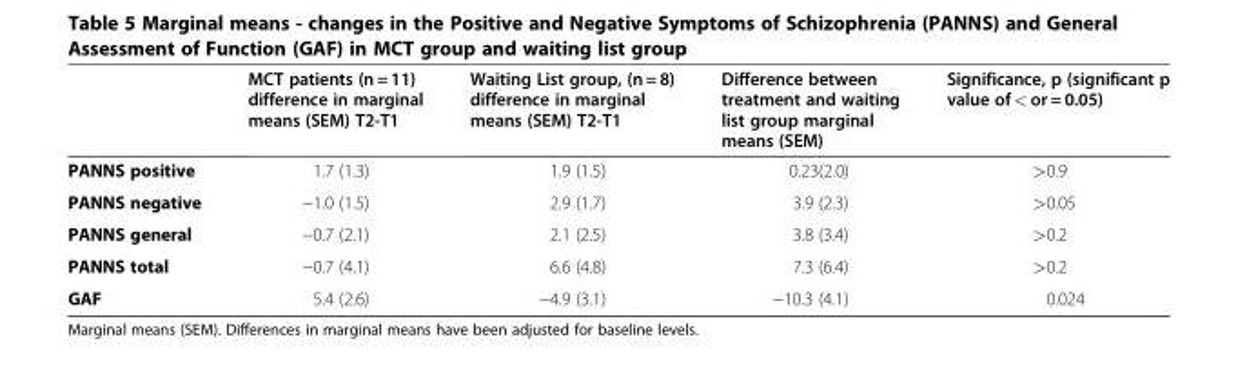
<table><thead><tr><td></td><td>MCT patients (n = 11) difference in marginal means (SEM) T2-T1</td><td>Waiting List group, (n = 8) difference in marginal means (SEM) T2-T1</td><td>Difference between treatment and waiting list group marginal means (SEM)</td><td>Significance, p (significant p value of &lt; or = 0.05)</td></tr></thead><tbody><tr><td>PANNS positive</td><td>1.7 (1.3)</td><td>1.9 (1.5)</td><td>0.23(2.0)</td><td>&gt;0.9</td></tr><tr><td>PANNS negative</td><td>−1.0 (1.5)</td><td>2.9 (1.7)</td><td>3.9 (2.3)</td><td>&gt;0.05</td></tr><tr><td>PANNS general</td><td>−0.7 (2.1)</td><td>2.1 (2.5)</td><td>3.8 (3.4)</td><td>&gt;0.2</td></tr><tr><td>PANNS total</td><td>−0.7 (4.1)</td><td>6.6 (4.8)</td><td>7.3 (6.4)</td><td>&gt;0.2</td></tr><tr><td>GAF</td><td>5.4 (2.6)</td><td>−4.9 (3.1)</td><td>−10.3 (4.1)</td><td>0.024</td></tr></tbody></table>